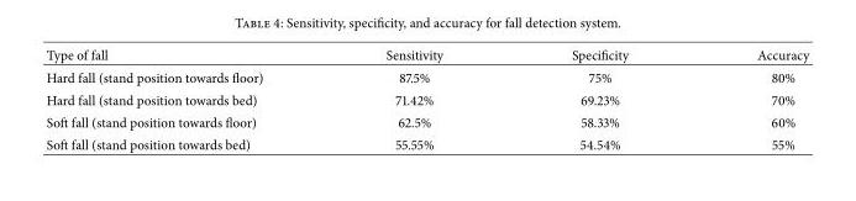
<table><thead><tr><td>Type of fall</td><td>Sensitivity</td><td>Specificity</td><td>Accuracy</td></tr></thead><tbody><tr><td>Hard fall (stand position towards floor)</td><td>87.5%</td><td>75%</td><td>80%</td></tr><tr><td>Hard fall (stand position towards bed)</td><td>71.42%</td><td>69.23%</td><td>70%</td></tr><tr><td>Soft fall (stand position towards floor)</td><td>62.5%</td><td>58.33%</td><td>60%</td></tr><tr><td>Soft fall (stand position towards bed)</td><td>55.55%</td><td>54.54%</td><td>55%</td></tr></tbody></table>